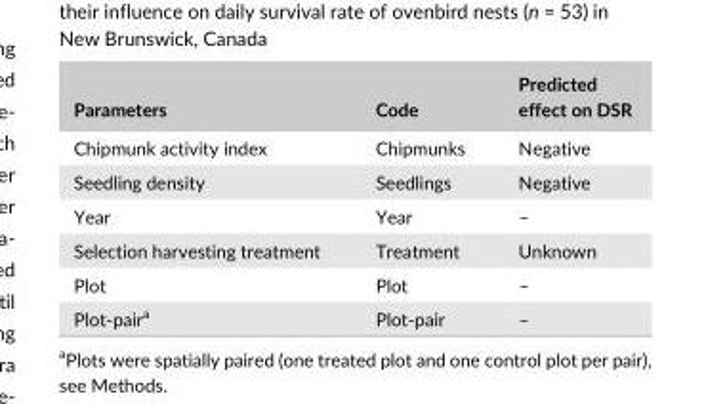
<table><thead><tr><td>Parameters</td><td>Code</td><td>Predicted effect on DSR</td></tr></thead><tbody><tr><td>Chipmunk activity index</td><td>Chipmunks</td><td>Negative</td></tr><tr><td>Seedling density</td><td>Seedlings</td><td>Negative</td></tr><tr><td>Year</td><td>Year</td><td>–</td></tr><tr><td>Selection harvesting treatment</td><td>Treatment</td><td>Unknown</td></tr><tr><td>Plot</td><td>Plot</td><td>–</td></tr><tr><td>Plot- pair<sup>a</sup></td><td>Plot- pair</td><td>–</td></tr></tbody></table>